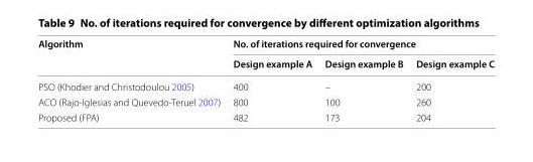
<table><thead><tr><td rowspan="2">Algorithm</td><td colspan="3">No. of iterations required for convergence</td></tr><tr><td>Design example A</td><td>Design example B</td><td>Design example C</td></tr></thead><tbody><tr><td>PSO (Khodier and Christodoulou 2005)</td><td>400</td><td>–</td><td>200</td></tr><tr><td>ACO (Rajo-Iglesias and Quevedo-Teruel 2007)</td><td>800</td><td>100</td><td>260</td></tr><tr><td>Proposed (FPA)</td><td>482</td><td>173</td><td>204</td></tr></tbody></table>